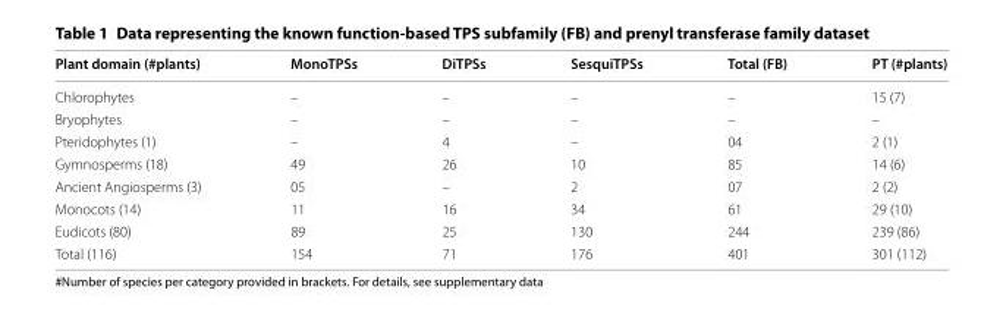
<table><thead><tr><td>Plant domain (#plants)</td><td>MonoTPSs</td><td>DiTPSs</td><td>SesquiTPSs</td><td>Total (FB)</td><td>PT (#plants)</td></tr></thead><tbody><tr><td>Chlorophytes</td><td>–</td><td>–</td><td>–</td><td>–</td><td>15 (7)</td></tr><tr><td>Bryophytes</td><td>–</td><td>–</td><td>–</td><td>–</td><td>–</td></tr><tr><td>Pteridophytes (1)</td><td>–</td><td>4</td><td>–</td><td>04</td><td>2 (1)</td></tr><tr><td>Gymnosperms (18)</td><td>49</td><td>26</td><td>10</td><td>85</td><td>14 (6)</td></tr><tr><td>Ancient Angiosperms (3)</td><td>05</td><td>–</td><td>2</td><td>07</td><td>2 (2)</td></tr><tr><td>Monocots (14)</td><td>11</td><td>16</td><td>34</td><td>61</td><td>29 (10)</td></tr><tr><td>Eudicots (80)</td><td>89</td><td>25</td><td>130</td><td>244</td><td>239 (86)</td></tr><tr><td>Total (116)</td><td>154</td><td>71</td><td>176</td><td>401</td><td>301 (112)</td></tr></tbody></table>